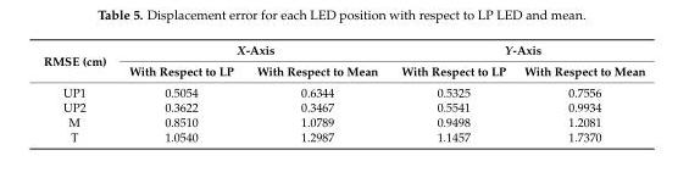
<table><thead><tr><td rowspan="2">RMSE (cm)</td><td colspan="2">X-Axis</td><td colspan="2">Y-Axis</td></tr><tr><td>With Respect to LP</td><td>With Respect to Mean</td><td>With Respect to LP</td><td>With Respect to Mean</td></tr></thead><tbody><tr><td>UP1</td><td>0.5054</td><td>0.6344</td><td>0.5325</td><td>0.7556</td></tr><tr><td>UP2</td><td>0.3622</td><td>0.3467</td><td>0.5541</td><td>0.9934</td></tr><tr><td>M</td><td>0.8510</td><td>1.0789</td><td>0.9498</td><td>1.2081</td></tr><tr><td>T</td><td>1.0540</td><td>1.2987</td><td>1.1457</td><td>1.7370</td></tr></tbody></table>